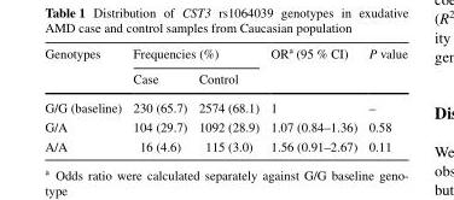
<table><thead><tr><td rowspan="2">Genotypes</td><td colspan="2">Frequencies (%)</td><td rowspan="2">OR<sup>a</sup> (95 % CI)</td><td rowspan="2">P value</td></tr><tr><td>Case</td><td>Control</td></tr></thead><tbody><tr><td>G/G (baseline)</td><td>230 (65.7)</td><td>2574 (68.1)</td><td>1</td><td>–</td></tr><tr><td>G/A</td><td>104 (29.7)</td><td>1092 (28.9)</td><td>1.07 (0.84–1.36)</td><td>0.58</td></tr><tr><td>A/A</td><td>16 (4.6)</td><td>115 (3.0)</td><td>1.56 (0.91–2.67)</td><td>0.11</td></tr></tbody></table>